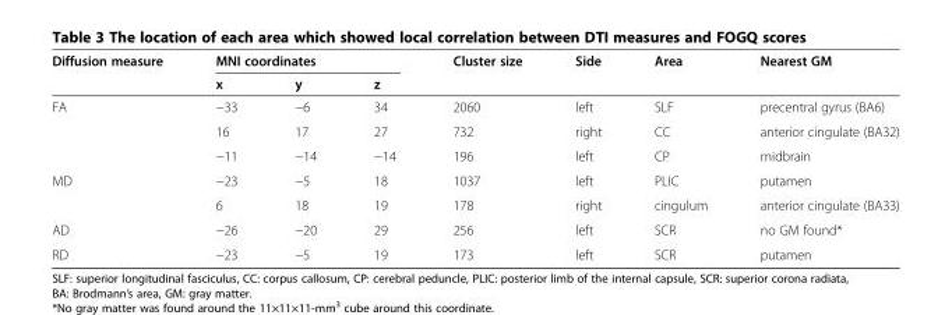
<table><thead><tr><td rowspan="2">Diffusion measure</td><td colspan="3">MNI coordinates</td><td rowspan="2">Cluster size</td><td rowspan="2">Side</td><td rowspan="2">Area</td><td rowspan="2">Nearest GM</td></tr><tr><td>x</td><td>y</td><td>z</td></tr></thead><tbody><tr><td rowspan="3">FA</td><td>−33</td><td>−6</td><td>34</td><td>2060</td><td>left</td><td>SLF</td><td>precentral gyrus (BA6)</td></tr><tr><td>16</td><td>17</td><td>27</td><td>732</td><td>right</td><td>CC</td><td>anterior cingulate (BA32)</td></tr><tr><td>−11</td><td>−14</td><td>−14</td><td>196</td><td>left</td><td>CP</td><td>midbrain</td></tr><tr><td rowspan="2">MD</td><td>−23</td><td>−5</td><td>18</td><td>1037</td><td>left</td><td>PLIC</td><td>putamen</td></tr><tr><td>6</td><td>18</td><td>19</td><td>178</td><td>right</td><td>cingulum</td><td>anterior cingulate (BA33)</td></tr><tr><td>AD</td><td>−26</td><td>−20</td><td>29</td><td>256</td><td>left</td><td>SCR</td><td>no GM found*</td></tr><tr><td>RD</td><td>−23</td><td>−5</td><td>19</td><td>173</td><td>left</td><td>SCR</td><td>putamen</td></tr></tbody></table>